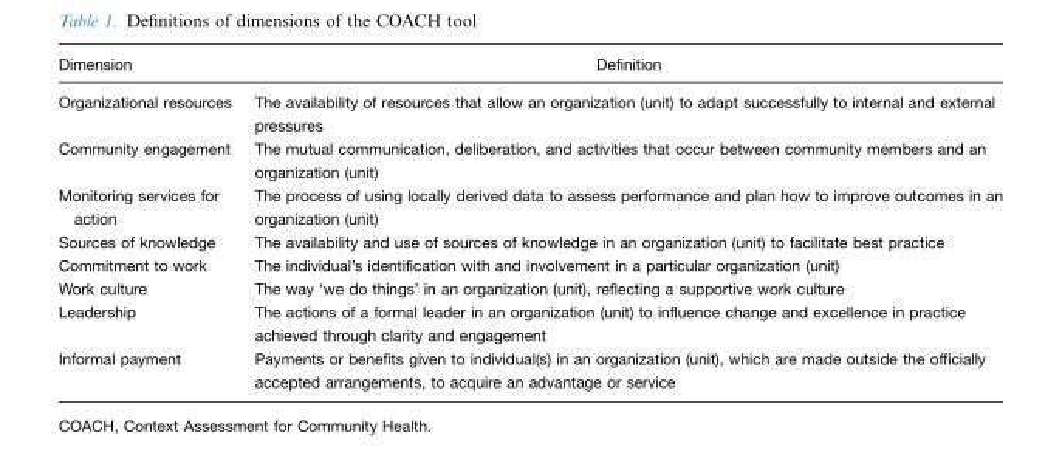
<table><thead><tr><td>Dimension</td><td>Definition</td></tr></thead><tbody><tr><td>Organizational resources</td><td>The availability of resources that allow an organization (unit) to adapt successfully to internal and external pressures</td></tr><tr><td>Community engagement</td><td>The mutual communication, deliberation, and activities that occur between community members and an organization (unit)</td></tr><tr><td>Monitoring services for action</td><td>The process of using locally derived data to assess performance and plan how to improve outcomes in an organization (unit)</td></tr><tr><td>Sources of knowledge</td><td>The availability and use of sources of knowledge in an organization (unit) to facilitate best practice</td></tr><tr><td>Commitment to work</td><td>The individual’s identification with and involvement in a particular organization (unit)</td></tr><tr><td>Work culture</td><td>The way ‘we do things’ in an organization (unit), reflecting a supportive work culture</td></tr><tr><td>Leadership</td><td>The actions of a formal leader in an organization (unit) to influence change and excellence in practice achieved through clarity and engagement</td></tr><tr><td>Informal payment</td><td>Payments or benefits given to individual(s) in an organization (unit), which are made outside the officially accepted arrangements, to acquire an advantage or service</td></tr></tbody></table>